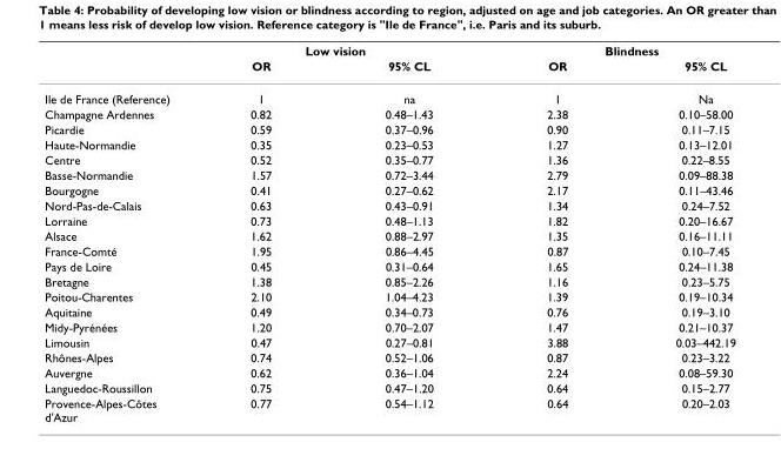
<table><thead><tr><td rowspan="2"></td><td colspan="2">Low vision</td><td colspan="2">Blindness</td></tr><tr><td>OR</td><td>95% CL</td><td>OR</td><td>95% CL</td></tr></thead><tbody><tr><td>Ile de France (Reference)</td><td>1</td><td>na</td><td>1</td><td>Na</td></tr><tr><td>Champagne Ardennes</td><td>0.82</td><td>0.48–1.43</td><td>2.38</td><td>0.10–58.00</td></tr><tr><td>Picardie</td><td>0.59</td><td>0.37–0.96</td><td>0.90</td><td>0.11–7.15</td></tr><tr><td>Haute-Normandie</td><td>0.35</td><td>0.23–0.53</td><td>1.27</td><td>0.13–12.01</td></tr><tr><td>Centre</td><td>0.52</td><td>0.35–0.77</td><td>1.36</td><td>0.22–8.55</td></tr><tr><td>Basse-Normandie</td><td>1.57</td><td>0.72–3.44</td><td>2.79</td><td>0.09–88.38</td></tr><tr><td>Bourgogne</td><td>0.41</td><td>0.27–0.62</td><td>2.17</td><td>0.11–43.46</td></tr><tr><td>Nord-Pas-de-Calais</td><td>0.63</td><td>0.43–0.91</td><td>1.34</td><td>0.24–7.52</td></tr><tr><td>Lorraine</td><td>0.73</td><td>0.48–1.13</td><td>1.82</td><td>0.20–16.67</td></tr><tr><td>Alsace</td><td>1.62</td><td>0.88–2.97</td><td>1.35</td><td>0.16–11.11</td></tr><tr><td>France-Comté</td><td>1.95</td><td>0.86–4.45</td><td>0.87</td><td>0.10–7.45</td></tr><tr><td>Pays de Loire</td><td>0.45</td><td>0.31–0.64</td><td>1.65</td><td>0.24–11.38</td></tr><tr><td>Bretagne</td><td>1.38</td><td>0.85–2.26</td><td>1.16</td><td>0.23–5.75</td></tr><tr><td>Poitou-Charentes</td><td>2.10</td><td>1.04–4.23</td><td>1.39</td><td>0.19–10.34</td></tr><tr><td>Aquitaine</td><td>0.49</td><td>0.34–0.73</td><td>0.76</td><td>0.19–3.10</td></tr><tr><td>Midy-Pyrénées</td><td>1.20</td><td>0.70–2.07</td><td>1.47</td><td>0.21–10.37</td></tr><tr><td>Limousin</td><td>0.47</td><td>0.27–0.81</td><td>3.88</td><td>0.03–442.19</td></tr><tr><td>Rhônes-Alpes</td><td>0.74</td><td>0.52–1.06</td><td>0.87</td><td>0.23–3.22</td></tr><tr><td>Auvergne</td><td>0.62</td><td>0.36–1.04</td><td>2.24</td><td>0.08–59.30</td></tr><tr><td>Languedoc-Roussillon</td><td>0.75</td><td>0.47–1.20</td><td>0.64</td><td>0.15–2.77</td></tr><tr><td>Provence-Alpes-Côtes d&#x27;Azur</td><td>0.77</td><td>0.54–1.12</td><td>0.64</td><td>0.20–2.03</td></tr></tbody></table>